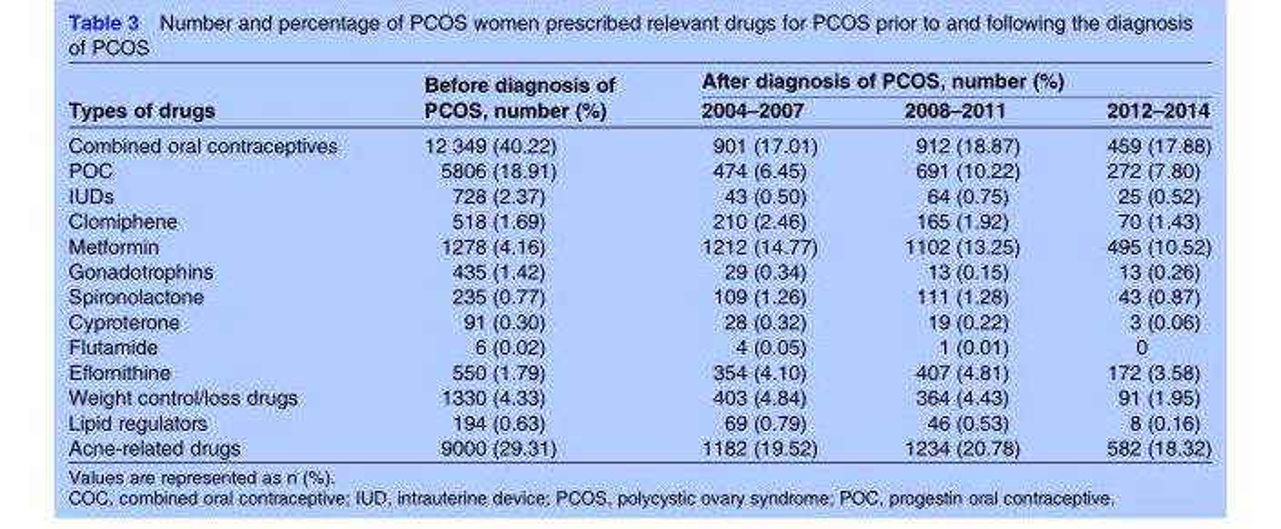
<table><thead><tr><td rowspan="2">Types of drugs</td><td rowspan="2">Before diagnosis of PCOS, number (%)</td><td colspan="3">After diagnosis of PCOS, number (%)</td></tr><tr><td>2004–2007</td><td>2008–2011</td><td>2012–2014</td></tr></thead><tbody><tr><td>Combined oral contraceptives</td><td>12 349 (40.22)</td><td>901 (17.01)</td><td>912 (18.87)</td><td>459 (17.88)</td></tr><tr><td>POC</td><td>5806 (18.91)</td><td>474 (6.45)</td><td>691 (10.22)</td><td>272 (7.80)</td></tr><tr><td>IUDs</td><td>728 (2.37)</td><td>43 (0.50)</td><td>64 (0.75)</td><td>25 (0.52)</td></tr><tr><td>Clomiphene</td><td>518 (1.69)</td><td>210 (2.46)</td><td>165 (1.92)</td><td>70 (1.43)</td></tr><tr><td>Metformin</td><td>1278 (4.16)</td><td>1212 (14.77)</td><td>1102 (13.25)</td><td>495 (10.52)</td></tr><tr><td>Gonadotrophins</td><td>435 (1.42)</td><td>29 (0.34)</td><td>13 (0.15)</td><td>13 (0.26)</td></tr><tr><td>Spironolactone</td><td>235 (0.77)</td><td>109 (1.26)</td><td>111 (1.28)</td><td>43 (0.87)</td></tr><tr><td>Cyproterone</td><td>91 (0.30)</td><td>28 (0.32)</td><td>19 (0.22)</td><td>3 (0.06)</td></tr><tr><td>Flutamide</td><td>6 (0.02)</td><td>4 (0.05)</td><td>1 (0.01)</td><td>0</td></tr><tr><td>Eflornithine</td><td>550 (1.79)</td><td>354 (4.10)</td><td>407 (4.81)</td><td>172 (3.58)</td></tr><tr><td>Weight control/loss drugs</td><td>1330 (4.33)</td><td>403 (4.84)</td><td>364 (4.43)</td><td>91 (1.95)</td></tr><tr><td>Lipid regulators</td><td>194 (0.63)</td><td>69 (0.79)</td><td>46 (0.53)</td><td>8 (0.16)</td></tr><tr><td>Acne-related drugs</td><td>9000 (29.31)</td><td>1182 (19.52)</td><td>1234 (20.78)</td><td>582 (18.32)</td></tr></tbody></table>